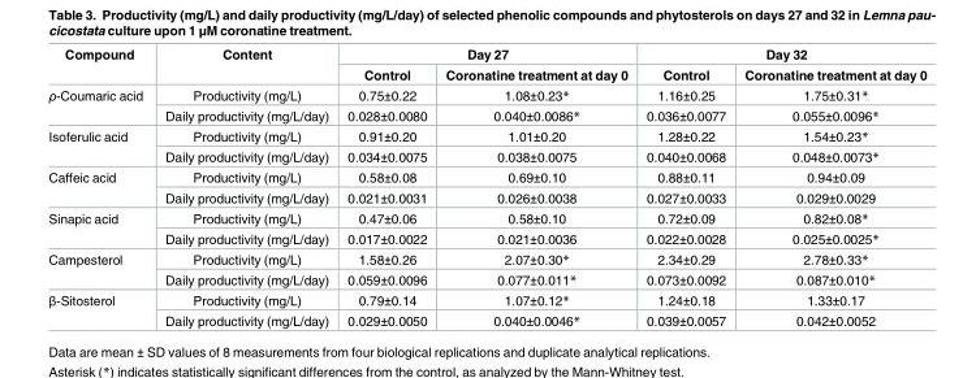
<table><thead><tr><td rowspan="2">Compound</td><td rowspan="2">Content</td><td colspan="2">Day 27</td><td colspan="2">Day 32</td></tr><tr><td>Control</td><td>Coronatine treatment at day 0</td><td>Control</td><td>Coronatine treatment at day 0</td></tr></thead><tbody><tr><td rowspan="2">ρ-Coumaric acid</td><td>Productivity (mg/L)</td><td>0.75±0.22</td><td>1.08±0.23*</td><td>1.16±0.25</td><td>1.75±0.31*</td></tr><tr><td>Daily productivity (mg/L/day)</td><td>0.028±0.0080</td><td>0.040±0.0086*</td><td>0.036±0.0077</td><td>0.055±0.0096*</td></tr><tr><td rowspan="2">Isoferulic acid</td><td>Productivity (mg/L)</td><td>0.91±0.20</td><td>1.01±0.20</td><td>1.28±0.22</td><td>1.54±0.23*</td></tr><tr><td>Daily productivity (mg/L/day)</td><td>0.034±0.0075</td><td>0.038±0.0075</td><td>0.040±0.0068</td><td>0.048±0.0073*</td></tr><tr><td rowspan="2">Caffeic acid</td><td>Productivity (mg/L)</td><td>0.58±0.08</td><td>0.69±0.10</td><td>0.88±0.11</td><td>0.94±0.09</td></tr><tr><td>Daily productivity (mg/L/day)</td><td>0.021±0.0031</td><td>0.026±0.0038</td><td>0.027±0.0033</td><td>0.029±0.0029</td></tr><tr><td rowspan="2">Sinapic acid</td><td>Productivity (mg/L)</td><td>0.47±0.06</td><td>0.58±0.10</td><td>0.72±0.09</td><td>0.82±0.08*</td></tr><tr><td>Daily productivity (mg/L/day)</td><td>0.017±0.0022</td><td>0.021±0.0036</td><td>0.022±0.0028</td><td>0.025±0.0025*</td></tr><tr><td rowspan="2">Campesterol</td><td>Productivity (mg/L)</td><td>1.58±0.26</td><td>2.07±0.30*</td><td>2.34±0.29</td><td>2.78±0.33*</td></tr><tr><td>Daily productivity (mg/L/day)</td><td>0.059±0.0096</td><td>0.077±0.011*</td><td>0.073±0.0092</td><td>0.087±0.010*</td></tr><tr><td rowspan="2">β-Sitosterol</td><td>Productivity (mg/L)</td><td>0.79±0.14</td><td>1.07±0.12*</td><td>1.24±0.18</td><td>1.33±0.17</td></tr><tr><td>Daily productivity (mg/L/day)</td><td>0.029±0.0050</td><td>0.040±0.0046*</td><td>0.039±0.0057</td><td>0.042±0.0052</td></tr></tbody></table>